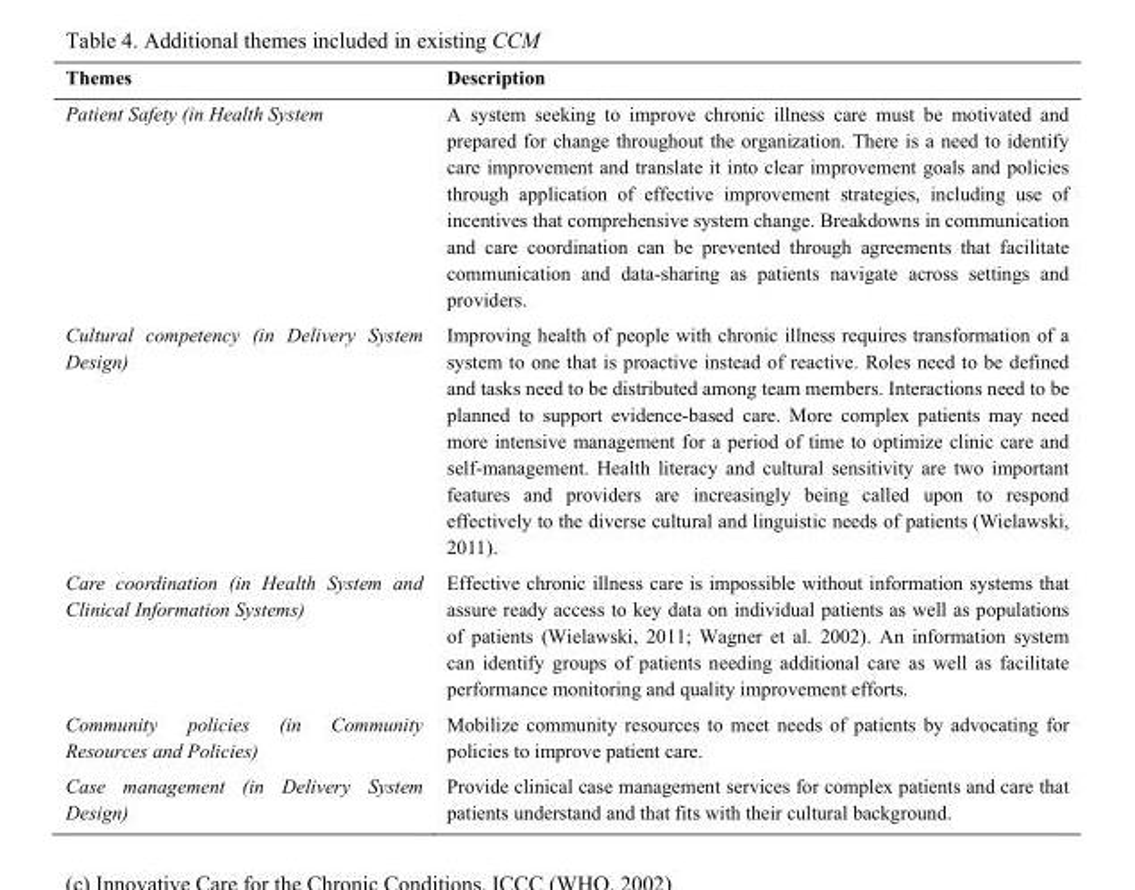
<table><thead><tr><td>Themes</td><td>Description</td></tr></thead><tbody><tr><td>Patient Safety (in Health System</td><td>A system seeking to improve chronic illness care must be motivated and prepared for change throughout the organization. There is a need to identify care improvement and translate it into clear improvement goals and policies through application of effective improvement strategies, including use of incentives that comprehensive system change. Breakdowns in communication and care coordination can be prevented through agreements that facilitate communication and data-sharing as patients navigate across settings and providers.</td></tr><tr><td>Cultural competency (in Delivery System Design)</td><td>Improving health of people with chronic illness requires transformation of a system to one that is proactive instead of reactive. Roles need to be defined and tasks need to be distributed among team members. Interactions need to be planned to support evidence-based care. More complex patients may need more intensive management for a period of time to optimize clinic care and self-management. Health literacy and cultural sensitivity are two important features and providers are increasingly being called upon to respond effectively to the diverse cultural and linguistic needs of patients (Wielawski, 2011).</td></tr><tr><td>Care coordination (in Health System and Clinical Information Systems)</td><td>Effective chronic illness care is impossible without information systems that assure ready access to key data on individual patients as well as populations of patients (Wielawski, 2011; Wagner et al. 2002). An information system can identify groups of patients needing additional care as well as facilitate performance monitoring and quality improvement efforts.</td></tr><tr><td>Community policies (in Community Resources and Policies)</td><td>Mobilize community resources to meet needs of patients by advocating for policies to improve patient care.</td></tr><tr><td>Case management (in Delivery System Design)</td><td>Provide clinical case management services for complex patients and care that patients understand and that fits with their cultural background.</td></tr></tbody></table>